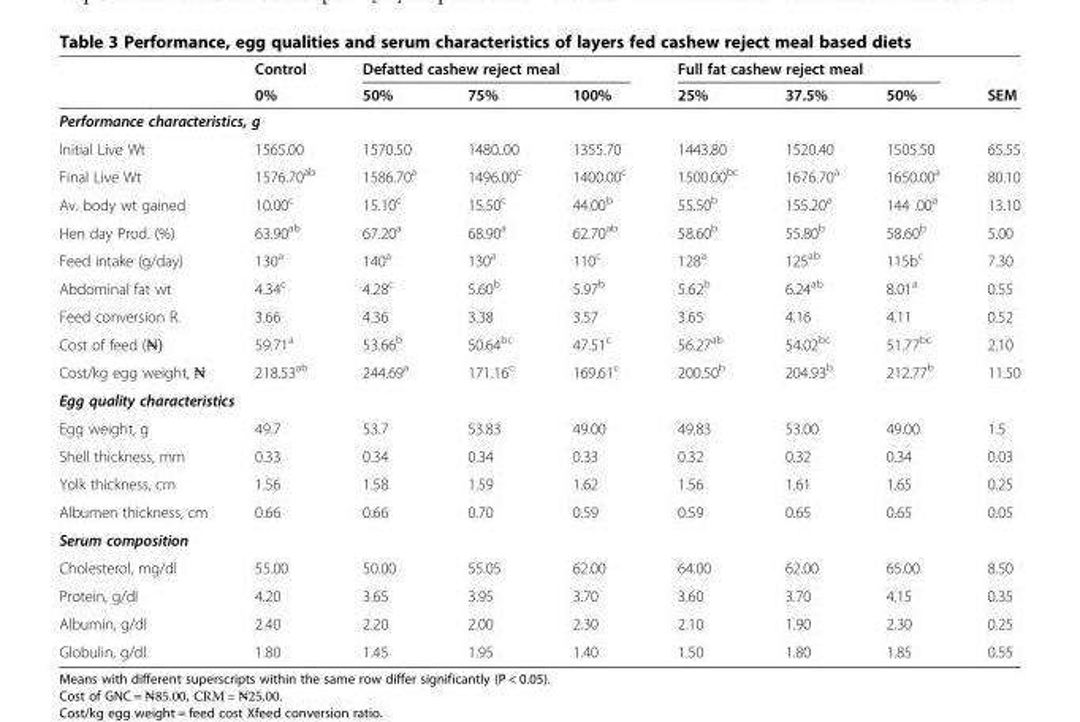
<table><thead><tr><td rowspan="2"></td><td rowspan="2">Control 0%</td><td colspan="3">Defatted cashew reject meal</td><td colspan="3">Full fat cashew reject meal</td><td rowspan="2">SEM</td></tr><tr><td>50%</td><td>75%</td><td>100%</td><td>25%</td><td>37.5%</td><td>50%</td></tr></thead><tbody><tr><td colspan="9">Performance characteristics, g</td></tr><tr><td>Initial Live Wt</td><td>1565.00</td><td>1570.50</td><td>1480..00</td><td>1355.70</td><td>1443.80</td><td>1520.40</td><td>1505.50</td><td>65.55</td></tr><tr><td>Final Live Wt</td><td>1576.70<sup>ab</sup></td><td>1586.70<sup>a</sup></td><td>1496.00<sup>c</sup></td><td>1400.00<sup>c</sup></td><td>1500.00<sup>bc</sup></td><td>1676.70<sup>a</sup></td><td>1650.00<sup>a</sup></td><td>80.10</td></tr><tr><td>Av. body wt gained</td><td>10.00<sup>c</sup></td><td>15.10<sup>c</sup></td><td>15.50<sup>c</sup></td><td>44.00<sup>b</sup></td><td>55.50<sup>b</sup></td><td>155.20<sup>a</sup></td><td>144 .00<sup>a</sup></td><td>13.10</td></tr><tr><td>Hen day Prod. (%)</td><td>63.90<sup>ab</sup></td><td>67.20<sup>a</sup></td><td>68.90<sup>a</sup></td><td>62.70<sup>ab</sup></td><td>58.60<sup>b</sup></td><td>55.80<sup>b</sup></td><td>58.60<sup>b</sup></td><td>5.00</td></tr><tr><td>Feed intake (g/day)</td><td>130<sup>a</sup></td><td>140<sup>a</sup></td><td>130<sup>a</sup></td><td>110<sup>c</sup></td><td>128<sup>a</sup></td><td>125<sup>ab</sup></td><td>115b<sup>c</sup></td><td>7.30</td></tr><tr><td>Abdominal fat wt</td><td>4.34<sup>c</sup></td><td>4.28<sup>c</sup></td><td>5.60<sup>b</sup></td><td>5.97<sup>b</sup></td><td>5.62<sup>b</sup></td><td>6.24<sup>ab</sup></td><td>8.01<sup>a</sup></td><td>0.55</td></tr><tr><td>Feed conversion R.</td><td>3.66</td><td>4.36</td><td>3.38</td><td>3.57</td><td>3.65</td><td>4.16</td><td>4.11</td><td>0.52</td></tr><tr><td>Cost of feed (₦)</td><td>59.71<sup>a</sup></td><td>53.66<sup>b</sup></td><td>50.64<sup>bc</sup></td><td>47.51<sup>c</sup></td><td>56.27<sup>ab</sup></td><td>54.02<sup>bc</sup></td><td>51.77<sup>bc</sup></td><td>2.10</td></tr><tr><td>Cost/kg egg weight, ₦</td><td>218.53<sup>ab</sup></td><td>244.69<sup>a</sup></td><td>171.16<sup>c</sup></td><td>169.61<sup>c</sup></td><td>200.50<sup>b</sup></td><td>204.93<sup>b</sup></td><td>212.77<sup>b</sup></td><td>11.50</td></tr><tr><td colspan="9">Egg quality characteristics</td></tr><tr><td>Egg weight, g</td><td>49.7</td><td>53.7</td><td>53.83</td><td>49.00</td><td>49.83</td><td>53.00</td><td>49.00</td><td>1.5</td></tr><tr><td>Shell thickness, mm</td><td>0.33</td><td>0.34</td><td>0.34</td><td>0.33</td><td>0.32</td><td>0.32</td><td>0.34</td><td>0.03</td></tr><tr><td>Yolk thickness, cm</td><td>1.56</td><td>1.58</td><td>1.59</td><td>1.62</td><td>1.56</td><td>1.61</td><td>1.65</td><td>0.25</td></tr><tr><td>Albumen thickness, cm</td><td>0.66</td><td>0.66</td><td>0.70</td><td>0.59</td><td>0.59</td><td>0.65</td><td>0.65</td><td>0.05</td></tr><tr><td colspan="9">Serum composition</td></tr><tr><td>Cholesterol, mg/dl</td><td>55.00</td><td>50.00</td><td>55.05</td><td>62.00</td><td>64.00</td><td>62.00</td><td>65.00</td><td>8.50</td></tr><tr><td>Protein, g/dl</td><td>4.20</td><td>3.65</td><td>3.95</td><td>3.70</td><td>3.60</td><td>3.70</td><td>4.15</td><td>0.35</td></tr><tr><td>Albumin, g/dl</td><td>2.40</td><td>2.20</td><td>2.00</td><td>2.30</td><td>2.10</td><td>1.90</td><td>2.30</td><td>0.25</td></tr><tr><td>Globulin, g/dl</td><td>1.80</td><td>1.45</td><td>1.95</td><td>1.40</td><td>1.50</td><td>1.80</td><td>1.85</td><td>0.55</td></tr></tbody></table>